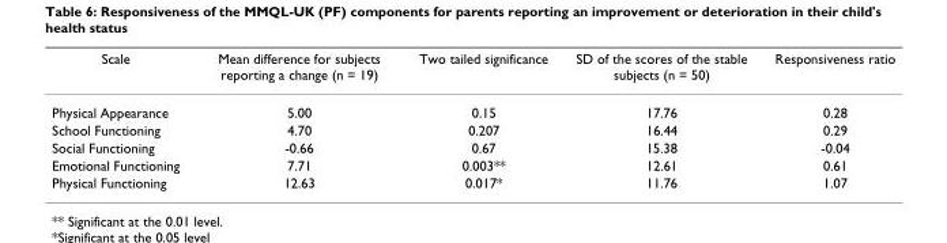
<table><thead><tr><td>Scale</td><td>Mean difference for subjects reporting a change (n = 19)</td><td>Two tailed significance</td><td>SD of the scores of the stable subjects (n = 50)</td><td>Responsiveness ratio</td></tr></thead><tbody><tr><td>Physical Appearance</td><td>5.00</td><td>0.15</td><td>17.76</td><td>0.28</td></tr><tr><td>School Functioning</td><td>4.70</td><td>0.207</td><td>16.44</td><td>0.29</td></tr><tr><td>Social Functioning</td><td>-0.66</td><td>0.67</td><td>15.38</td><td>-0.04</td></tr><tr><td>Emotional Functioning</td><td>7.71</td><td>0.003**</td><td>12.61</td><td>0.61</td></tr><tr><td>Physical Functioning</td><td>12.63</td><td>0.017*</td><td>11.76</td><td>1.07</td></tr></tbody></table>